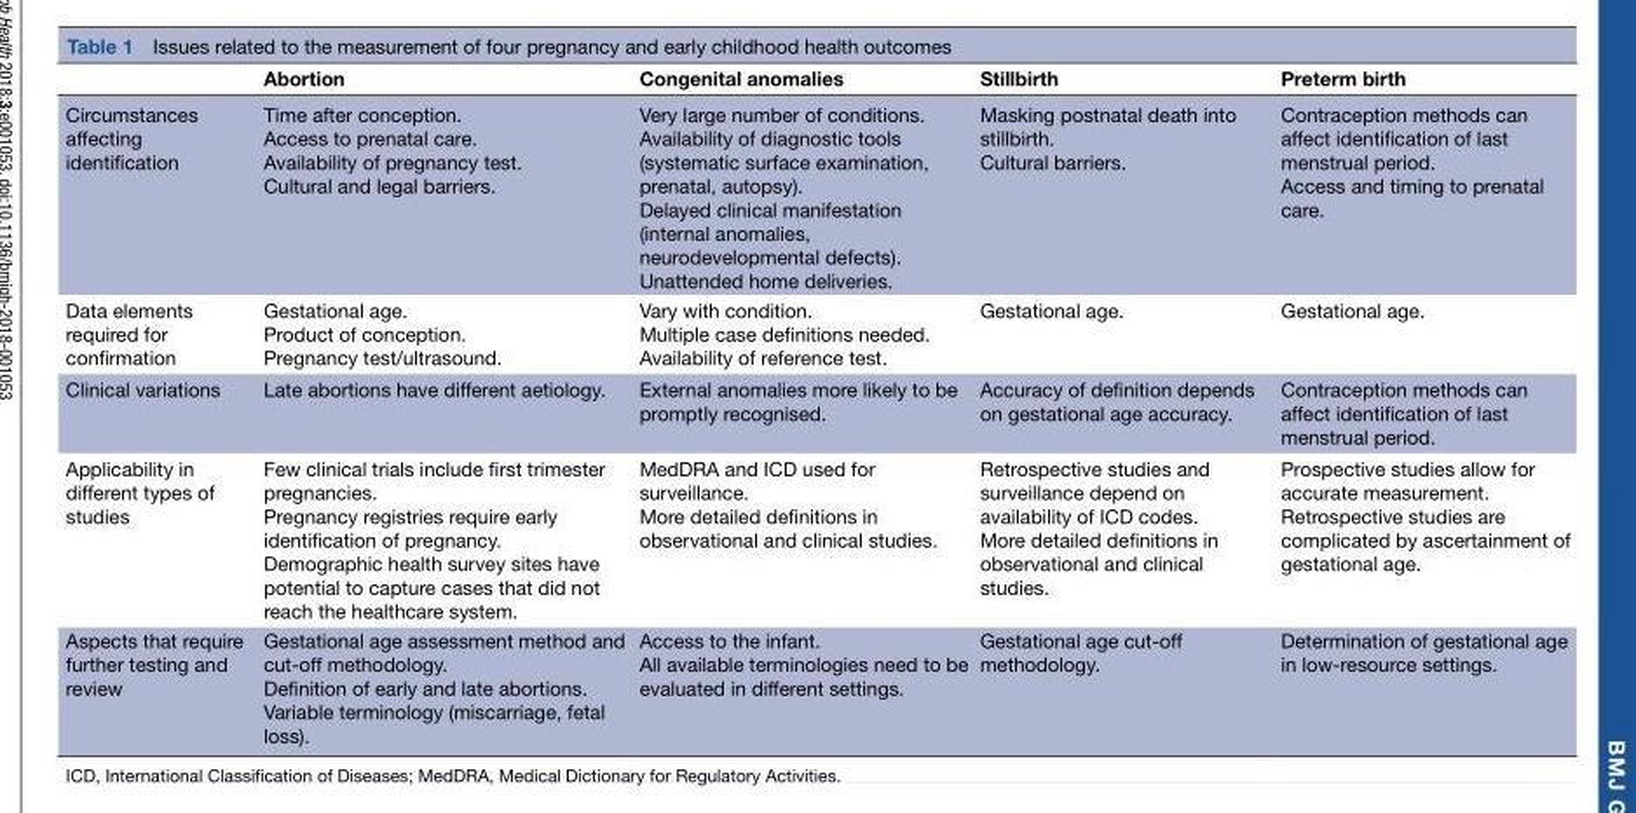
<table><thead><tr><td></td><td>Abortion</td><td>Congenital anomalies</td><td>Stillbirth</td><td>Preterm birth</td></tr></thead><tbody><tr><td>Circumstances affecting identification</td><td>Time after conception. Access to prenatal care. Availability of pregnancy test. Cultural and legal barriers.</td><td>Very large number of conditions. Availability of diagnostic tools (systematic surface examination, prenatal, autopsy). Delayed clinical manifestation (internal anomalies, neurodevelopmental defects). Unattended home deliveries.</td><td>Masking postnatal death into stillbirth. Cultural barriers.</td><td>Contraception methods can affect identification of last menstrual period. Access and timing to prenatal care.</td></tr><tr><td>Data elements required for confirmation</td><td>Gestational age. Product of conception. Pregnancy test/ultrasound.</td><td>Vary with condition. Multiple case definitions needed. Availability of reference test.</td><td>Gestational age.</td><td>Gestational age.</td></tr><tr><td>Clinical variations</td><td>Late abortions have different aetiology.</td><td>External anomalies more likely to be promptly recognised.</td><td>Accuracy of definition depends on gestational age accuracy.</td><td>Contraception methods can affect identification of last menstrual period.</td></tr><tr><td>Applicability in different types of studies</td><td>Few clinical trials include first trimester pregnancies. Pregnancy registries require early identification of pregnancy. Demographic health survey sites have potential to capture cases that did not reach the healthcare system.</td><td>MedDRA and ICD used for surveillance. More detailed definitions in observational and clinical studies.</td><td>Retrospective studies and surveillance depend on availability of ICD codes. More detailed definitions in observational and clinical studies.</td><td>Prospective studies allow for accurate measurement. Retrospective studies are complicated by ascertainment of gestational age.</td></tr><tr><td>Aspects that require further testing and review</td><td>Gestational age assessment method and cut-off methodology. Definition of early and late abortions. Variable terminology (miscarriage, fetal loss).</td><td>Access to the infant. All available terminologies need to be evaluated in different settings.</td><td>Gestational age cut-off methodology.</td><td>Determination of gestational age in low-resource settings.</td></tr></tbody></table>